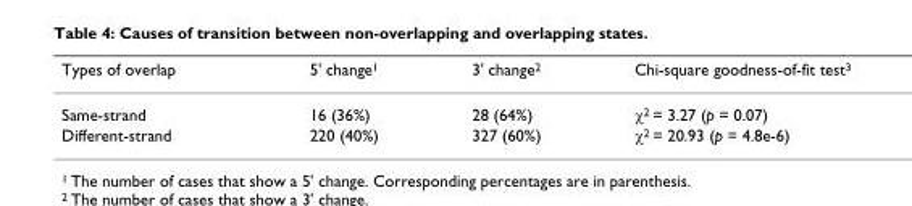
<table><thead><tr><td>Types of overlap</td><td>5&#x27; change<sup>1</sup></td><td>3&#x27; change<sup>2</sup></td><td>Chi-square goodness-of-fit test<sup>3</sup></td></tr></thead><tbody><tr><td>Same-strand</td><td>16 (36%)</td><td>28 (64%)</td><td>χ<sup>2</sup> = 3.27 (p = 0.07)</td></tr><tr><td>Different-strand</td><td>220 (40%)</td><td>327 (60%)</td><td>χ<sup>2</sup> = 20.93 (p = 4.8e-6)</td></tr></tbody></table>